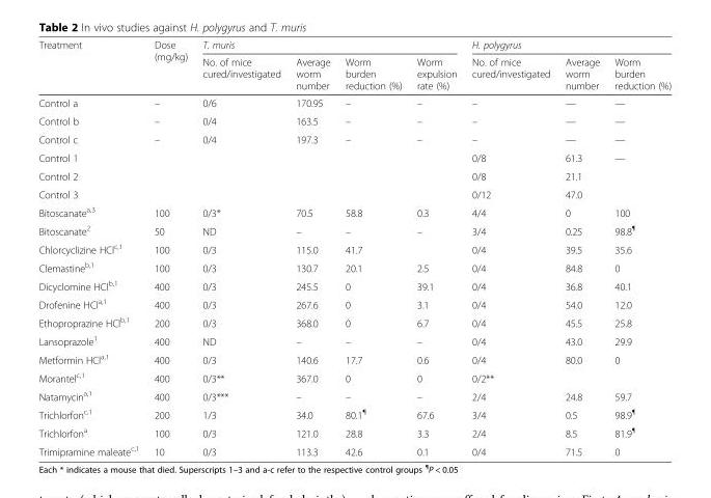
<table><thead><tr><td rowspan="2">Treatment</td><td rowspan="2">Dose (mg/kg)</td><td colspan="4">T. muris</td><td colspan="3">H. polygyrus</td></tr><tr><td>No. of mice cured/investigated</td><td>Average worm number</td><td>Worm burden reduction (%)</td><td>Worm expulsion rate (%)</td><td>No. of mice cured/investigated</td><td>Average worm number</td><td>Worm burden reduction (%)</td></tr></thead><tbody><tr><td>Control a</td><td>–</td><td>0/6</td><td>170.95</td><td>–</td><td>–</td><td>–</td><td>—</td><td>—</td></tr><tr><td>Control b</td><td>–</td><td>0/4</td><td>163.5</td><td>–</td><td>–</td><td>–</td><td>—</td><td>—</td></tr><tr><td>Control c</td><td>–</td><td>0/4</td><td>197.3</td><td>–</td><td>–</td><td>–</td><td>—</td><td>—</td></tr><tr><td>Control 1</td><td></td><td></td><td></td><td></td><td></td><td>0/8</td><td>61.3</td><td>—</td></tr><tr><td>Control 2</td><td></td><td></td><td></td><td></td><td></td><td>0/8</td><td>21.1</td><td></td></tr><tr><td>Control 3</td><td></td><td></td><td></td><td></td><td></td><td>0/12</td><td>47.0</td><td></td></tr><tr><td>Bitoscanate<sup>a,3</sup></td><td>100</td><td>0/3*</td><td>70.5</td><td>58.8</td><td>0.3</td><td>4/4</td><td>0</td><td>100</td></tr><tr><td>Bitoscanate<sup>2</sup></td><td>50</td><td>ND</td><td>–</td><td>–</td><td>–</td><td>3/4</td><td>0.25</td><td>98.8<sup>¶</sup></td></tr><tr><td>Chlorcyclizine HCl<sup>c,1</sup></td><td>100</td><td>0/3</td><td>115.0</td><td>41.7</td><td></td><td>0/4</td><td>39.5</td><td>35.6</td></tr><tr><td>Clemastine<sup>b,1</sup></td><td>100</td><td>0/3</td><td>130.7</td><td>20.1</td><td>2.5</td><td>0/4</td><td>84.8</td><td>0</td></tr><tr><td>Dicyclomine HCl<sup>b,1</sup></td><td>400</td><td>0/3</td><td>245.5</td><td>0</td><td>39.1</td><td>0/4</td><td>36.8</td><td>40.1</td></tr><tr><td>Drofenine HCl<sup>a,1</sup></td><td>400</td><td>0/3</td><td>267.6</td><td>0</td><td>3.1</td><td>0/4</td><td>54.0</td><td>12.0</td></tr><tr><td>Ethoproprazine HCl<sup>b,1</sup></td><td>200</td><td>0/3</td><td>368.0</td><td>0</td><td>6.7</td><td>0/4</td><td>45.5</td><td>25.8</td></tr><tr><td>Lansoprazole<sup>1</sup></td><td>400</td><td>ND</td><td>–</td><td>–</td><td>–</td><td>0/4</td><td>43.0</td><td>29.9</td></tr><tr><td>Metformin HCl<sup>a,1</sup></td><td>400</td><td>0/3</td><td>140.6</td><td>17.7</td><td>0.6</td><td>0/4</td><td>80.0</td><td>0</td></tr><tr><td>Morantel<sup>c,1</sup></td><td>400</td><td>0/3**</td><td>367.0</td><td>0</td><td>0</td><td>0/2**</td><td></td><td></td></tr><tr><td>Natamycin<sup>a,1</sup></td><td>400</td><td>0/3***</td><td>–</td><td>–</td><td>–</td><td>2/4</td><td>24.8</td><td>59.7</td></tr><tr><td>Trichlorfon<sup>c,1</sup></td><td>200</td><td>1/3</td><td>34.0</td><td>80.1<sup>¶</sup></td><td>67.6</td><td>3/4</td><td>0.5</td><td>98.9<sup>¶</sup></td></tr><tr><td>Trichlorfon<sup>a</sup></td><td>100</td><td>0/3</td><td>121.0</td><td>28.8</td><td>3.3</td><td>2/4</td><td>8.5</td><td>81.9<sup>¶</sup></td></tr><tr><td>Trimipramine maleate<sup>c,1</sup></td><td>10</td><td>0/3</td><td>113.3</td><td>42.6</td><td>0.1</td><td>0/4</td><td>71.5</td><td>0</td></tr></tbody></table>